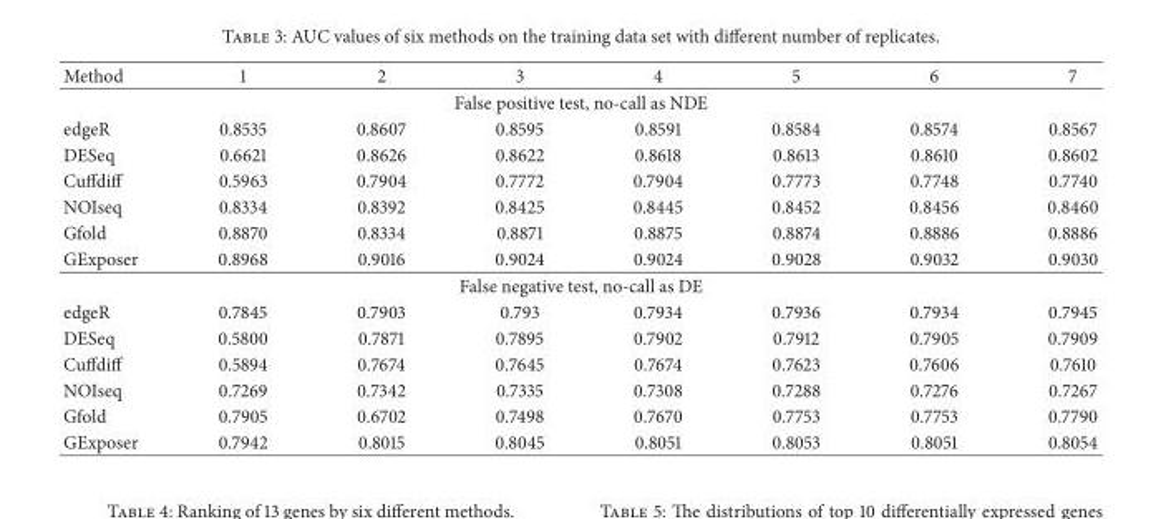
<table><thead><tr><td>Method</td><td>1</td><td>2</td><td>3</td><td>4</td><td>5</td><td>6</td><td>7</td></tr></thead><tbody><tr><td colspan="8">False positive test, no-call as NDE</td></tr><tr><td>edgeR</td><td>0.8535</td><td>0.8607</td><td>0.8595</td><td>0.8591</td><td>0.8584</td><td>0.8574</td><td>0.8567</td></tr><tr><td>DESeq</td><td>0.6621</td><td>0.8626</td><td>0.8622</td><td>0.8618</td><td>0.8613</td><td>0.8610</td><td>0.8602</td></tr><tr><td>Cuffdiff</td><td>0.5963</td><td>0.7904</td><td>0.7772</td><td>0.7904</td><td>0.7773</td><td>0.7748</td><td>0.7740</td></tr><tr><td>NOIseq</td><td>0.8334</td><td>0.8392</td><td>0.8425</td><td>0.8445</td><td>0.8452</td><td>0.8456</td><td>0.8460</td></tr><tr><td>Gfold</td><td>0.8870</td><td>0.8334</td><td>0.8871</td><td>0.8875</td><td>0.8874</td><td>0.8886</td><td>0.8886</td></tr><tr><td>GExposer</td><td>0.8968</td><td>0.9016</td><td>0.9024</td><td>0.9024</td><td>0.9028</td><td>0.9032</td><td>0.9030</td></tr><tr><td colspan="8">False negative test, no-call as DE</td></tr><tr><td>edgeR</td><td>0.7845</td><td>0.7903</td><td>0.793</td><td>0.7934</td><td>0.7936</td><td>0.7934</td><td>0.7945</td></tr><tr><td>DESeq</td><td>0.5800</td><td>0.7871</td><td>0.7895</td><td>0.7902</td><td>0.7912</td><td>0.7905</td><td>0.7909</td></tr><tr><td>Cuffdiff</td><td>0.5894</td><td>0.7674</td><td>0.7645</td><td>0.7674</td><td>0.7623</td><td>0.7606</td><td>0.7610</td></tr><tr><td>NOIseq</td><td>0.7269</td><td>0.7342</td><td>0.7335</td><td>0.7308</td><td>0.7288</td><td>0.7276</td><td>0.7267</td></tr><tr><td>Gfold</td><td>0.7905</td><td>0.6702</td><td>0.7498</td><td>0.7670</td><td>0.7753</td><td>0.7753</td><td>0.7790</td></tr><tr><td>GExposer</td><td>0.7942</td><td>0.8015</td><td>0.8045</td><td>0.8051</td><td>0.8053</td><td>0.8051</td><td>0.8054</td></tr></tbody></table>